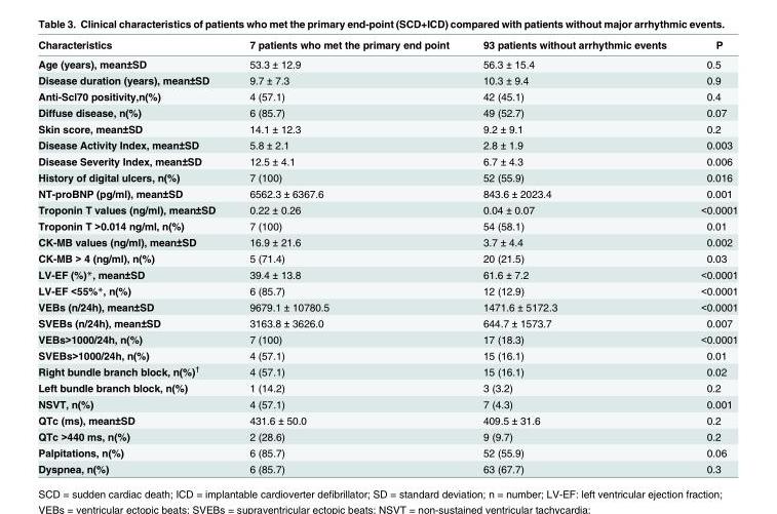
<table><thead><tr><td>Characteristics</td><td>7 patients who met the primary end point</td><td>93 patients without arrhythmic events</td><td>P</td></tr></thead><tbody><tr><td>Age (years), mean±SD</td><td>53.3 ± 12.9</td><td>56.3 ± 15.4</td><td>0.5</td></tr><tr><td>Disease duration (years), mean±SD</td><td>9.7 ± 7.3</td><td>10.3 ± 9.4</td><td>0.9</td></tr><tr><td>Anti-Scl70 positivity,n(%)</td><td>4 (57.1)</td><td>42 (45.1)</td><td>0.4</td></tr><tr><td>Diffuse disease, n(%)</td><td>6 (85.7)</td><td>49 (52.7)</td><td>0.07</td></tr><tr><td>Skin score, mean±SD</td><td>14.1 ± 12.3</td><td>9.2 ± 9.1</td><td>0.2</td></tr><tr><td>Disease Activity Index, mean±SD</td><td>5.8 ± 2.1</td><td>2.8 ± 1.9</td><td>0.003</td></tr><tr><td>Disease Severity Index, mean±SD</td><td>12.5 ± 4.1</td><td>6.7 ± 4.3</td><td>0.006</td></tr><tr><td>History of digital ulcers, n(%)</td><td>7 (100)</td><td>52 (55.9)</td><td>0.016</td></tr><tr><td>NT-proBNP (pg/ml), mean±SD</td><td>6562.3 ± 6367.6</td><td>843.6 ± 2023.4</td><td>0.001</td></tr><tr><td>Troponin T values (ng/ml), mean±SD</td><td>0.22 ± 0.26</td><td>0.04 ± 0.07</td><td>&lt;0.0001</td></tr><tr><td>Troponin T &gt;0.014 ng/ml, n(%)</td><td>7 (100)</td><td>54 (58.1)</td><td>0.01</td></tr><tr><td>CK-MB values (ng/ml), mean±SD</td><td>16.9 ± 21.6</td><td>3.7 ± 4.4</td><td>0.002</td></tr><tr><td>CK-MB &gt; 4 (ng/ml), n(%)</td><td>5 (71.4)</td><td>20 (21.5)</td><td>0.03</td></tr><tr><td>LV-EF (%)*, mean±SD</td><td>39.4 ± 13.8</td><td>61.6 ± 7.2</td><td>&lt;0.0001</td></tr><tr><td>LV-EF &lt;55%*, n(%)</td><td>6 (85.7)</td><td>12 (12.9)</td><td>&lt;0.0001</td></tr><tr><td>VEBs (n/24h), mean±SD</td><td>9679.1 ± 10780.5</td><td>1471.6 ± 5172.3</td><td>&lt;0.0001</td></tr><tr><td>SVEBs (n/24h), mean±SD</td><td>3163.8 ± 3626.0</td><td>644.7 ± 1573.7</td><td>0.007</td></tr><tr><td>VEBs&gt;1000/24h, n(%)</td><td>7 (100)</td><td>17 (18.3)</td><td>&lt;0.0001</td></tr><tr><td>SVEBs&gt;1000/24h, n(%)</td><td>4 (57.1)</td><td>15 (16.1)</td><td>0.01</td></tr><tr><td>Right bundle branch block, n(%)<sup>†</sup></td><td>4 (57.1)</td><td>15 (16.1)</td><td>0.02</td></tr><tr><td>Left bundle branch block, n(%)</td><td>1 (14.2)</td><td>3 (3.2)</td><td>0.2</td></tr><tr><td>NSVT, n(%)</td><td>4 (57.1)</td><td>7 (4.3)</td><td>0.001</td></tr><tr><td>QTc (ms), mean±SD</td><td>431.6 ± 50.0</td><td>409.5 ± 31.6</td><td>0.2</td></tr><tr><td>QTc &gt;440 ms, n(%)</td><td>2 (28.6)</td><td>9 (9.7)</td><td>0.2</td></tr><tr><td>Palpitations, n(%)</td><td>6 (85.7)</td><td>52 (55.9)</td><td>0.06</td></tr><tr><td>Dyspnea, n(%)</td><td>6 (85.7)</td><td>63 (67.7)</td><td>0.3</td></tr></tbody></table>